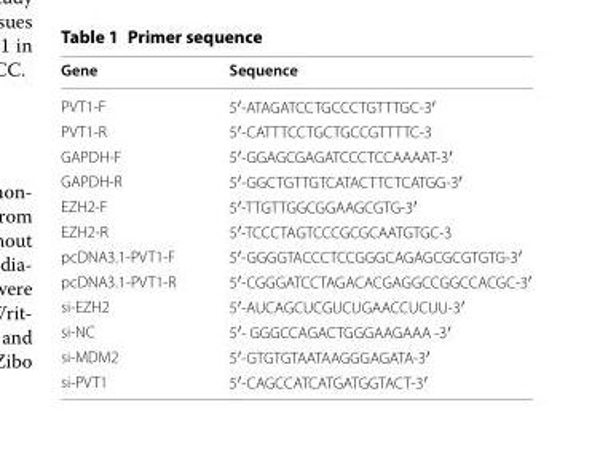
<table><thead><tr><td>Gene</td><td>Sequence</td></tr></thead><tbody><tr><td>PVT1-F</td><td>5′-ATA GAT CCT GCC CTG TTT GC-3′</td></tr><tr><td>PVT1-R</td><td>5′-CAT TTC CTG CTG CCG TTT TC-3</td></tr><tr><td>GAPDH-F</td><td>5′-GGA GCG AGA TCC CTC CAA AAT-3′</td></tr><tr><td>GAPDH-R</td><td>5′-GGC TGT TGT CAT ACT TCT CATGG-3′</td></tr><tr><td>EZH2-F</td><td>5′-TTG TTG GCG GAA GCGTG-3′</td></tr><tr><td>EZH2-R</td><td>5′-TCC CTA GTC CCG CGC AAT GTGC-3</td></tr><tr><td>pcDNA3.1-PVT1-F</td><td>5′-GGG GTA CCC TCC GGG CAG AGC GCG TGTG-3′</td></tr><tr><td>pcDNA3.1-PVT1-R</td><td>5′-CGG GAT CCT AGA CAC GAG GCC GGC CACGC-3′</td></tr><tr><td>si-EZH2</td><td>5′-AUC AGC UCG UCU GAA CCU CUU-3′</td></tr><tr><td>si-NC</td><td>5′- GGG CCA GAC TGG GAA GAA A -3′</td></tr><tr><td>si-MDM2</td><td>5′-GTG TGT AAT AAG GGA GAT A-3′</td></tr><tr><td>si-PVT1</td><td>5′-CAG CCA TCA TGA TGG TAC T-3′</td></tr></tbody></table>